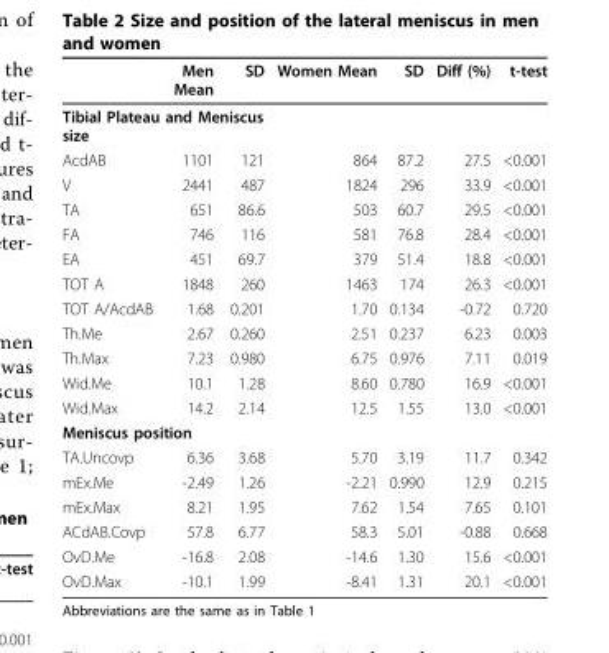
<table><thead><tr><td></td><td>Men Mean</td><td>SD</td><td>Women Mean</td><td>SD</td><td>Diff (%)</td><td>t-test</td></tr></thead><tbody><tr><td colspan="7">Tibial Plateau and Meniscus size</td></tr><tr><td>AcdAB</td><td>1101</td><td>121</td><td>864</td><td>87.2</td><td>27.5</td><td>&lt;0.001</td></tr><tr><td>V</td><td>2441</td><td>487</td><td>1824</td><td>296</td><td>33.9</td><td>&lt;0.001</td></tr><tr><td>TA</td><td>651</td><td>86.6</td><td>503</td><td>60.7</td><td>29.5</td><td>&lt;0.001</td></tr><tr><td>FA</td><td>746</td><td>116</td><td>581</td><td>76.8</td><td>28.4</td><td>&lt;0.001</td></tr><tr><td>EA</td><td>451</td><td>69.7</td><td>379</td><td>51.4</td><td>18.8</td><td>&lt;0.001</td></tr><tr><td>TOT A</td><td>1848</td><td>260</td><td>1463</td><td>174</td><td>26.3</td><td>&lt;0.001</td></tr><tr><td>TOT A/AcdAB</td><td>1.68</td><td>0.201</td><td>1.70</td><td>0.134</td><td>-0.72</td><td>0.720</td></tr><tr><td>Th.Me</td><td>2.67</td><td>0.260</td><td>2.51</td><td>0.237</td><td>6.23</td><td>0.003</td></tr><tr><td>Th.Max</td><td>7.23</td><td>0.980</td><td>6.75</td><td>0.976</td><td>7.11</td><td>0.019</td></tr><tr><td>Wid.Me</td><td>10.1</td><td>1.28</td><td>8.60</td><td>0.780</td><td>16.9</td><td>&lt;0.001</td></tr><tr><td>Wid.Max</td><td>14.2</td><td>2.14</td><td>12.5</td><td>1.55</td><td>13.0</td><td>&lt;0.001</td></tr><tr><td colspan="7">Meniscus position</td></tr><tr><td>TA.Uncovp</td><td>6.36</td><td>3.68</td><td>5.70</td><td>3.19</td><td>11.7</td><td>0.342</td></tr><tr><td>mEx.Me</td><td>-2.49</td><td>1.26</td><td>-2.21</td><td>0.990</td><td>12.9</td><td>0.215</td></tr><tr><td>mEx.Max</td><td>8.21</td><td>1.95</td><td>7.62</td><td>1.54</td><td>7.65</td><td>0.101</td></tr><tr><td>ACdAB.Covp</td><td>57.8</td><td>6.77</td><td>58.3</td><td>5.01</td><td>-0.88</td><td>0.668</td></tr><tr><td>OvD.Me</td><td>-16.8</td><td>2.08</td><td>-14.6</td><td>1.30</td><td>15.6</td><td>&lt;0.001</td></tr><tr><td>OvD.Max</td><td>-10.1</td><td>1.99</td><td>-8.41</td><td>1.31</td><td>20.1</td><td>&lt;0.001</td></tr></tbody></table>